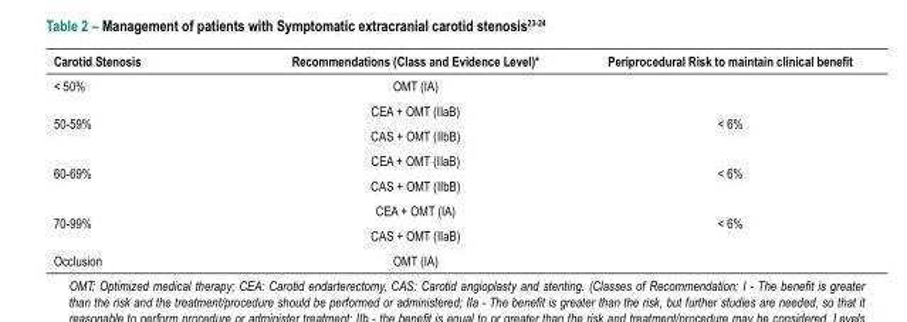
<table><thead><tr><td>Carotid Stenosis</td><td>Recommendations (Class and Evidence Level)*</td><td>Periprocedural Risk to maintain clinical benefit</td></tr></thead><tbody><tr><td>&lt; 50%</td><td>OMT (IA)</td><td></td></tr><tr><td rowspan="2">50-59%</td><td>CEA + OMT (IIaB)</td><td rowspan="2">&lt; 6%</td></tr><tr><td>CAS + OMT (IIbB)</td></tr><tr><td rowspan="2">60-69%</td><td>CEA + OMT (IIaB)</td><td rowspan="2">&lt; 6%</td></tr><tr><td>CAS + OMT (IIbB)</td></tr><tr><td rowspan="2">70-99%</td><td>CEA + OMT (IA)</td><td rowspan="2">&lt; 6%</td></tr><tr><td>CAS + OMT (IIaB)</td></tr><tr><td>Occlusion</td><td>OMT (IA)</td><td></td></tr></tbody></table>